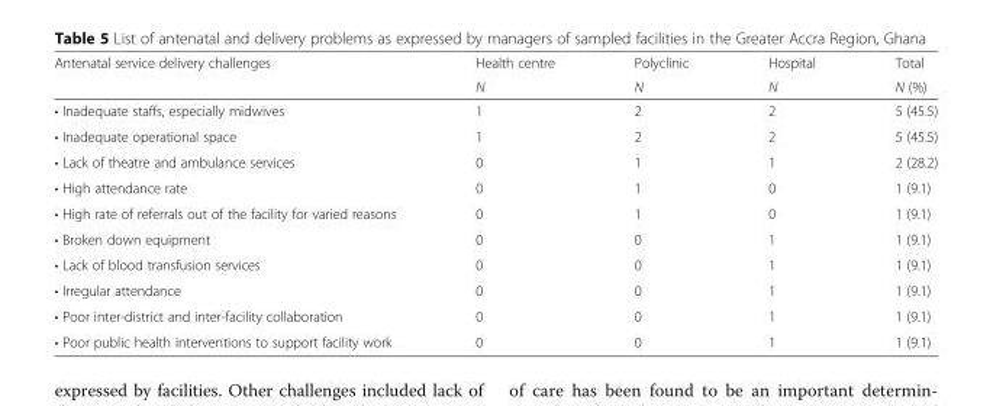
<table><thead><tr><td rowspan="2">Antenatal service delivery challenges</td><td rowspan="2">Health centre N</td><td rowspan="2">Polyclinic N</td><td rowspan="2">Hospital N</td><td rowspan="2">Total N (%)</td></tr><tr></tr></thead><tbody><tr><td>• Inadequate staffs, especially midwives</td><td>1</td><td>2</td><td>2</td><td>5 (45.5)</td></tr><tr><td>• Inadequate operational space</td><td>1</td><td>2</td><td>2</td><td>5 (45.5)</td></tr><tr><td>• Lack of theatre and ambulance services</td><td>0</td><td>1</td><td>1</td><td>2 (28.2)</td></tr><tr><td>• High attendance rate</td><td>0</td><td>1</td><td>0</td><td>1 (9.1)</td></tr><tr><td>• High rate of referrals out of the facility for varied reasons</td><td>0</td><td>1</td><td>0</td><td>1 (9.1)</td></tr><tr><td>• Broken down equipment</td><td>0</td><td>0</td><td>1</td><td>1 (9.1)</td></tr><tr><td>• Lack of blood transfusion services</td><td>0</td><td>0</td><td>1</td><td>1 (9.1)</td></tr><tr><td>• Irregular attendance</td><td>0</td><td>0</td><td>1</td><td>1 (9.1)</td></tr><tr><td>• Poor inter-district and inter-facility collaboration</td><td>0</td><td>0</td><td>1</td><td>1 (9.1)</td></tr><tr><td>• Poor public health interventions to support facility work</td><td>0</td><td>0</td><td>1</td><td>1 (9.1)</td></tr></tbody></table>